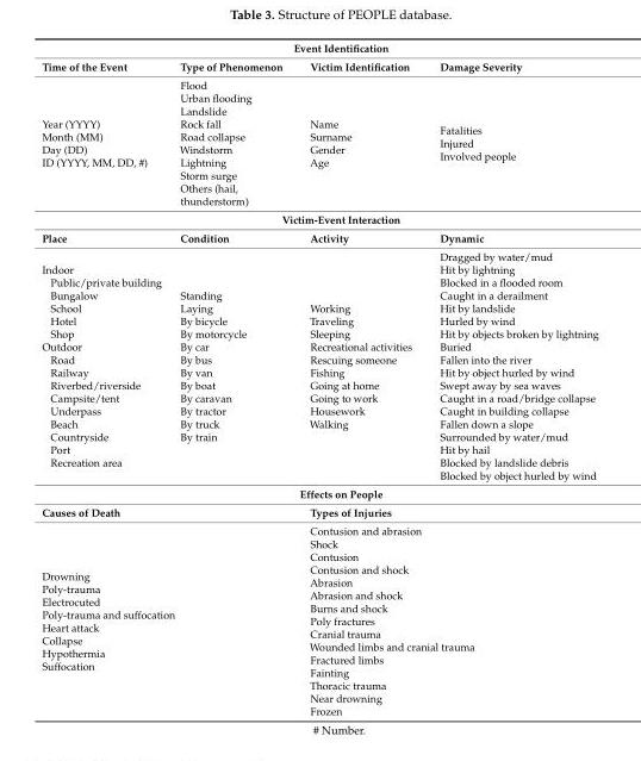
<table><tbody><tr><td colspan="4">Event Identification</td></tr><tr><td>Time of the Event</td><td>Type of Phenomenon</td><td>Victim Identification</td><td>Damage Severity</td></tr><tr><td>Year (YYYY) Month (MM) Day (DD) ID (YYYY, MM, DD, #)</td><td>Flood Urban flooding Landslide Rock fall Road collapse Windstorm Lightning Storm surge Others (hail, thunderstorm)</td><td>Name Surname Gender Age</td><td>Fatalities Injured Involved people</td></tr><tr><td colspan="4">Victim-Event Interaction</td></tr><tr><td>Place</td><td>Condition</td><td>Activity</td><td>Dynamic</td></tr><tr><td>Indoor Public/private building Bungalow School Hotel Shop Outdoor Road Railway Riverbed/riverside Campsite/tent Underpass Beach Countryside Port Recreation area</td><td>Standing Laying By bicycle By motorcycle By car By bus By van By boat By caravan By tractor By truck By train</td><td>Working Traveling Sleeping Recreational activities Rescuing someone Fishing Going at home Going to work Housework Walking</td><td>Dragged by water/mud Hit by lightning Blocked in a flooded room Caught in a derailment Hit by landslide Hurled by wind Hit by objects broken by lightning Buried Fallen into the river Hit by object hurled by wind Swept away by sea waves Caught in a road/bridge collapse Caught in building collapse Fallen down a slope Surrounded by water/mud Hit by hail Blocked by landslide debris Blocked by object hurled by wind</td></tr><tr><td colspan="4">Effects on People</td></tr><tr><td colspan="2">Causes of Death</td><td colspan="2">Types of Injuries</td></tr><tr><td colspan="2">Drowning Poly-trauma Electrocuted Poly-trauma and suffocation Heart attack Collapse Hypothermia Suffocation</td><td colspan="2">Contusion and abrasion Shock Contusion Contusion and shock Abrasion Abrasion and shock Burns and shock Poly fractures Cranial trauma Wounded limbs and cranial trauma Fractured limbs Fainting Thoracic trauma Near drowning Frozen</td></tr></tbody></table>